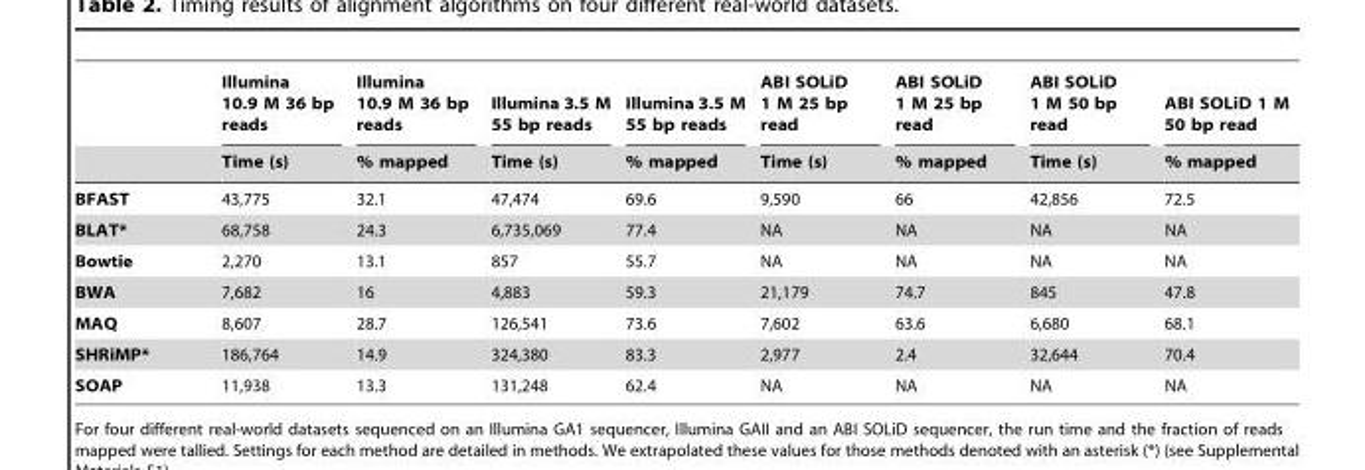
<table><thead><tr><td rowspan="2"></td><td rowspan="2">Illumina 10.9 M 36 bp reads Time (s)</td><td rowspan="2">Illumina 10.9 M 36 bp reads % mapped</td><td rowspan="2">Illumina 3.5 M 55 bp reads Time (s)</td><td rowspan="2">Illumina 3.5 M 55 bp reads % mapped</td><td rowspan="2">ABI SOLiD 1 M 25 bp read Time (s)</td><td rowspan="2">ABI SOLiD 1 M 25 bp read % mapped</td><td rowspan="2">ABI SOLiD 1 M 50 bp read Time (s)</td><td rowspan="2">ABI SOLiD 1 M 50 bp read % mapped</td></tr><tr></tr></thead><tbody><tr><td>BFAST</td><td>43,775</td><td>32.1</td><td>47,474</td><td>69.6</td><td>9,590</td><td>66</td><td>42,856</td><td>72.5</td></tr><tr><td>BLAT*</td><td>68,758</td><td>24.3</td><td>6,735,069</td><td>77.4</td><td>NA</td><td>NA</td><td>NA</td><td>NA</td></tr><tr><td>Bowtie</td><td>2,270</td><td>13.1</td><td>857</td><td>55.7</td><td>NA</td><td>NA</td><td>NA</td><td>NA</td></tr><tr><td>BWA</td><td>7,682</td><td>16</td><td>4,883</td><td>59.3</td><td>21,179</td><td>74.7</td><td>845</td><td>47.8</td></tr><tr><td>MAQ</td><td>8,607</td><td>28.7</td><td>126,541</td><td>73.6</td><td>7,602</td><td>63.6</td><td>6,680</td><td>68.1</td></tr><tr><td>SHRiMP*</td><td>186,764</td><td>14.9</td><td>324,380</td><td>83.3</td><td>2,977</td><td>2.4</td><td>32,644</td><td>70.4</td></tr><tr><td>SOAP</td><td>11,938</td><td>13.3</td><td>131,248</td><td>62.4</td><td>NA</td><td>NA</td><td>NA</td><td>NA</td></tr></tbody></table>